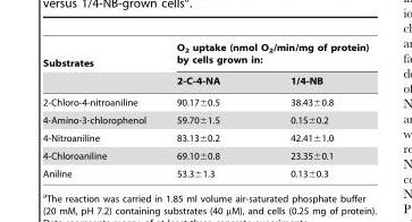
<table><thead><tr><td rowspan="2">Substrates</td><td colspan="2">O2 uptake (nmol O2/min/mg of protein) by cells grown in:</td></tr><tr><td>2-C-4-NA</td><td>1/4-NB</td></tr></thead><tbody><tr><td>2-Chloro-4-nitroaniline</td><td>90.17±0.5</td><td>38.43±0.8</td></tr><tr><td>4-Amino-3-chlorophenol</td><td>59.70±1.5</td><td>0.15±0.2</td></tr><tr><td>4-Nitroaniline</td><td>83.13±0.2</td><td>42.41±1.0</td></tr><tr><td>4-Chloroaniline</td><td>69.10±0.8</td><td>23.35±0.1</td></tr><tr><td>Aniline</td><td>53.3±1.3</td><td>0.13±0.3</td></tr></tbody></table>